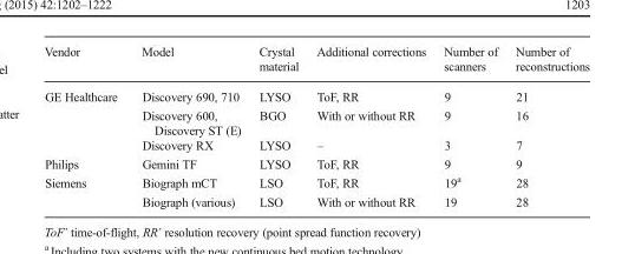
<table><thead><tr><td>Vendor</td><td>Model</td><td>Crystal material</td><td>Additional corrections</td><td>Number of scanners</td><td>Number of reconstructions</td></tr></thead><tbody><tr><td rowspan="3">GE Healthcare</td><td>Discovery 690, 710</td><td>LYSO</td><td>ToF, RR</td><td>9</td><td>21</td></tr><tr><td>Discovery 600, Discovery ST (E)</td><td>BGO</td><td>With or without RR</td><td>9</td><td>16</td></tr><tr><td>Discovery RX</td><td>LYSO</td><td>–</td><td>3</td><td>7</td></tr><tr><td>Philips</td><td>Gemini TF</td><td>LYSO</td><td>ToF, RR</td><td>9</td><td>9</td></tr><tr><td rowspan="2">Siemens</td><td>Biograph mCT</td><td>LSO</td><td>ToF, RR</td><td>19<sup>a</sup></td><td>28</td></tr><tr><td>Biograph (various)</td><td>LSO</td><td>With or without RR</td><td>19</td><td>28</td></tr></tbody></table>